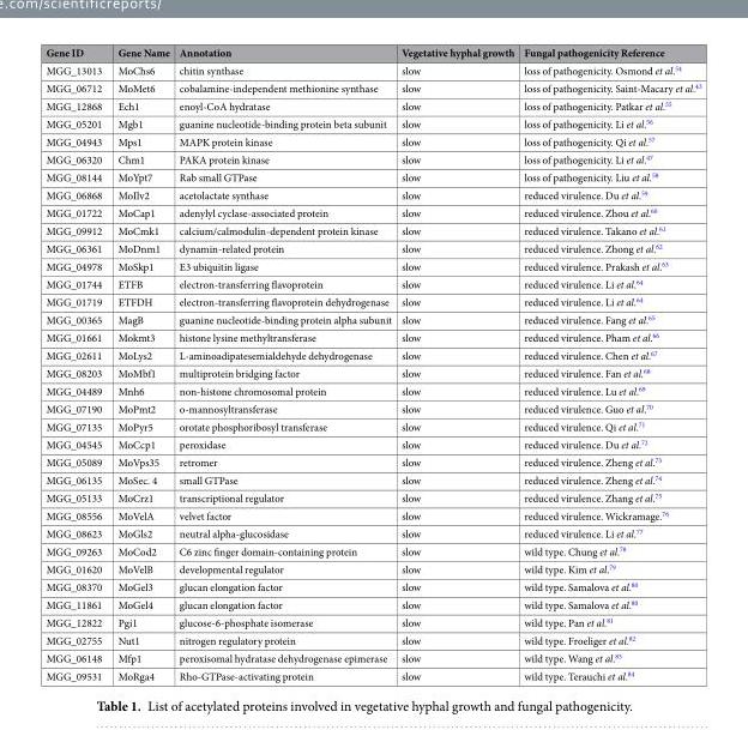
<table><thead><tr><td>Gene ID</td><td>Gene Name</td><td>Annotation</td><td>Vegetative hyphal growth</td><td>Fungal pathogenicity Reference</td></tr></thead><tbody><tr><td>MGG_13013</td><td>MoChs6</td><td>chitin synthase</td><td>slow</td><td>loss of pathogenicity. Osmond et al.<sup>54</sup></td></tr><tr><td>MGG_06712</td><td>MoMet6</td><td>cobalamine-independent methionine synthase</td><td>slow</td><td>loss of pathogenicity. Saint-Macary et al.<sup>43</sup></td></tr><tr><td>MGG_12868</td><td>Ech1</td><td>enoyl-CoA hydratase</td><td>slow</td><td>loss of pathogenicity. Patkar et al.<sup>55</sup></td></tr><tr><td>MGG_05201</td><td>Mgb1</td><td>guanine nucleotide-binding protein beta subunit</td><td>slow</td><td>loss of pathogenicity. Li et al.<sup>56</sup></td></tr><tr><td>MGG_04943</td><td>Mps1</td><td>MAPK protein kinase</td><td>slow</td><td>loss of pathogenicity. Qi et al.<sup>57</sup></td></tr><tr><td>MGG_06320</td><td>Chm1</td><td>PAKA protein kinase</td><td>slow</td><td>loss of pathogenicity. Li et al.<sup>47</sup></td></tr><tr><td>MGG_08144</td><td>MoYpt7</td><td>Rab small GTPase</td><td>slow</td><td>loss of pathogenicity. Liu et al.<sup>58</sup></td></tr><tr><td>MGG_06868</td><td>MoIlv2</td><td>acetolactate synthase</td><td>slow</td><td>reduced virulence. Du et al.<sup>59</sup></td></tr><tr><td>MGG_01722</td><td>MoCap1</td><td>adenylyl cyclase-associated protein</td><td>slow</td><td>reduced virulence. Zhou et al.<sup>60</sup></td></tr><tr><td>MGG_09912</td><td>MoCmk1</td><td>calcium/calmodulin-dependent protein kinase</td><td>slow</td><td>reduced virulence. Takano et al.<sup>61</sup></td></tr><tr><td>MGG_06361</td><td>MoDnm1</td><td>dynamin-related protein</td><td>slow</td><td>reduced virulence. Zhong et al.<sup>62</sup></td></tr><tr><td>MGG_04978</td><td>MoSkp1</td><td>E3 ubiquitin ligase</td><td>slow</td><td>reduced virulence. Prakash et al.<sup>63</sup></td></tr><tr><td>MGG_01744</td><td>ETFB</td><td>electron-transferring flavoprotein</td><td>slow</td><td>reduced virulence. Li et al.<sup>64</sup></td></tr><tr><td>MGG_01719</td><td>ETFDH</td><td>electron-transferring flavoprotein dehydrogenase</td><td>slow</td><td>reduced virulence. Li et al.<sup>64</sup></td></tr><tr><td>MGG_00365</td><td>MagB</td><td>guanine nucleotide-binding protein alpha subunit</td><td>slow</td><td>reduced virulence. Fang et al.<sup>65</sup></td></tr><tr><td>MGG_01661</td><td>Mokmt3</td><td>histone lysine methyltransferase</td><td>slow</td><td>reduced virulence. Pham et al.<sup>66</sup></td></tr><tr><td>MGG_02611</td><td>MoLys2</td><td>L-aminoadipatesemialdehyde dehydrogenase</td><td>slow</td><td>reduced virulence. Chen et al.<sup>67</sup></td></tr><tr><td>MGG_08203</td><td>MoMbf1</td><td>multiprotein bridging factor</td><td>slow</td><td>reduced virulence. Fan et al.<sup>68</sup></td></tr><tr><td>MGG_04489</td><td>Mnh6</td><td>non-histone chromosomal protein</td><td>slow</td><td>reduced virulence. Lu et al.<sup>69</sup></td></tr><tr><td>MGG_07190</td><td>MoPmt2</td><td>o-mannosyltransferase</td><td>slow</td><td>reduced virulence. Guo et al.<sup>70</sup></td></tr><tr><td>MGG_07135</td><td>MoPyr5</td><td>orotate phosphoribosyl transferase</td><td>slow</td><td>reduced virulence. Qi et al.<sup>71</sup></td></tr><tr><td>MGG_04545</td><td>MoCcp1</td><td>peroxidase</td><td>slow</td><td>reduced virulence. Du et al.<sup>72</sup></td></tr><tr><td>MGG_05089</td><td>MoVps35</td><td>retromer</td><td>slow</td><td>reduced virulence. Zheng et al.<sup>73</sup></td></tr><tr><td>MGG_06135</td><td>MoSec. 4</td><td>small GTPase</td><td>slow</td><td>reduced virulence. Zheng et al.<sup>74</sup></td></tr><tr><td>MGG_05133</td><td>MoCrz1</td><td>transcriptional regulator</td><td>slow</td><td>reduced virulence. Zhang et al.<sup>75</sup></td></tr><tr><td>MGG_08556</td><td>MoVelA</td><td>velvet factor</td><td>slow</td><td>reduced virulence. Wickramage.<sup>76</sup></td></tr><tr><td>MGG_08623</td><td>MoGls2</td><td>neutral alpha-glucosidase</td><td>slow</td><td>reduced virulence. Li et al.<sup>77</sup></td></tr><tr><td>MGG_09263</td><td>MoCod2</td><td>C6 zinc finger domain-containing protein</td><td>slow</td><td>wild type. Chung et al.<sup>78</sup></td></tr><tr><td>MGG_01620</td><td>MoVelB</td><td>developmental regulator</td><td>slow</td><td>wild type. Kim et al.<sup>79</sup></td></tr><tr><td>MGG_08370</td><td>MoGel3</td><td>glucan elongation factor</td><td>slow</td><td>wild type. Samalova et al.<sup>80</sup></td></tr><tr><td>MGG_11861</td><td>MoGel4</td><td>glucan elongation factor</td><td>slow</td><td>wild type. Samalova et al.<sup>80</sup></td></tr><tr><td>MGG_12822</td><td>Pgi1</td><td>glucose-6-phosphate isomerase</td><td>slow</td><td>wild type. Pan et al.<sup>81</sup></td></tr><tr><td>MGG_02755</td><td>Nut1</td><td>nitrogen regulatory protein</td><td>slow</td><td>wild type. Froeliger et al.<sup>82</sup></td></tr><tr><td>MGG_06148</td><td>Mfp1</td><td>peroxisomal hydratase dehydrogenase epimerase</td><td>slow</td><td>wild type. Wang et al.<sup>83</sup></td></tr><tr><td>MGG_09531</td><td>MoRga4</td><td>Rho-GTPase-activating protein</td><td>slow</td><td>wild type. Terauchi et al.<sup>84</sup></td></tr></tbody></table>